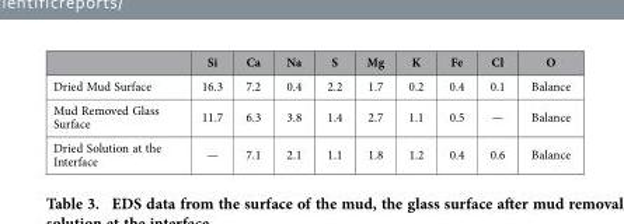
<table><thead><tr><td></td><td>Si</td><td>Ca</td><td>Na</td><td>S</td><td>Mg</td><td>K</td><td>Fe</td><td>Cl</td><td>O</td></tr></thead><tbody><tr><td>Dried Mud Surface</td><td>16.3</td><td>7.2</td><td>0.4</td><td>2.2</td><td>1.7</td><td>0.2</td><td>0.4</td><td>0.1</td><td>Balance</td></tr><tr><td>Mud Removed Glass Surface</td><td>11.7</td><td>6.3</td><td>3.8</td><td>1.4</td><td>2.7</td><td>1.1</td><td>0.5</td><td>—</td><td>Balance</td></tr><tr><td>Dried Solution at the Interface</td><td>—</td><td>7.1</td><td>2.1</td><td>1.1</td><td>1.8</td><td>1.2</td><td>0.4</td><td>0.6</td><td>Balance</td></tr></tbody></table>